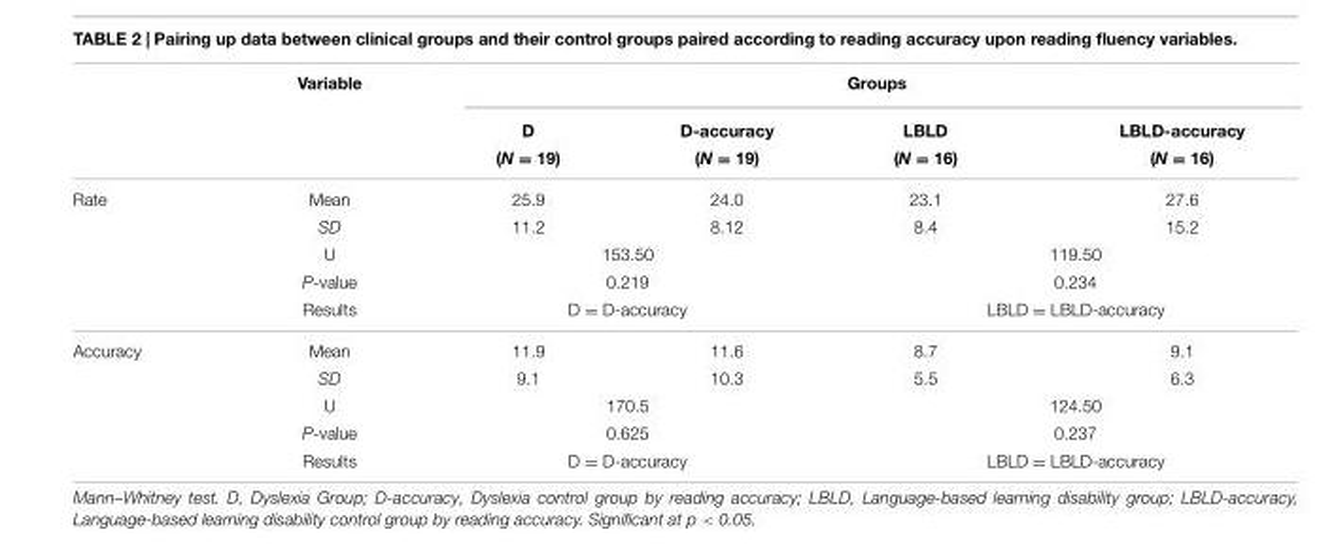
<table><thead><tr><td rowspan="3"></td><td rowspan="3">Variable</td><td colspan="4">Groups</td></tr><tr><td rowspan="2">D (N = 19)</td><td rowspan="2">D-accuracy (N = 19)</td><td rowspan="2">LBLD (N = 16)</td><td rowspan="2">LBLD-accuracy (N = 16)</td></tr><tr></tr></thead><tbody><tr><td rowspan="5">Rate</td><td>Mean</td><td>25.9</td><td>24.0</td><td>23.1</td><td>27.6</td></tr><tr><td>SD</td><td>11.2</td><td>8.12</td><td>8.4</td><td>15.2</td></tr><tr><td>U</td><td colspan="2">153.50</td><td colspan="2">119.50</td></tr><tr><td>P-value</td><td colspan="2">0.219</td><td colspan="2">0.234</td></tr><tr><td>Results</td><td colspan="2">D = D-accuracy</td><td colspan="2">LBLD = LBLD-accuracy</td></tr><tr><td rowspan="5">Accuracy</td><td>Mean</td><td>11.9</td><td>11.6</td><td>8.7</td><td>9.1</td></tr><tr><td>SD</td><td>9.1</td><td>10.3</td><td>5.5</td><td>6.3</td></tr><tr><td>U</td><td colspan="2">170.5</td><td colspan="2">124.50</td></tr><tr><td>P-value</td><td colspan="2">0.625</td><td colspan="2">0.237</td></tr><tr><td>Results</td><td colspan="2">D = D-accuracy</td><td colspan="2">LBLD = LBLD-accuracy</td></tr></tbody></table>